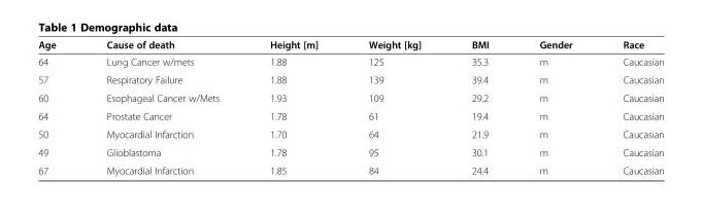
<table><thead><tr><td>Age</td><td>Cause of death</td><td>Height [m]</td><td>Weight [kg]</td><td>BMI</td><td>Gender</td><td>Race</td></tr></thead><tbody><tr><td>64</td><td>Lung Cancer w/mets</td><td>1.88</td><td>125</td><td>35.3</td><td>m</td><td>Caucasian</td></tr><tr><td>57</td><td>Respiratory Failure</td><td>1.88</td><td>139</td><td>39.4</td><td>m</td><td>Caucasian</td></tr><tr><td>60</td><td>Esophageal Cancer w/Mets</td><td>1.93</td><td>109</td><td>29.2</td><td>m</td><td>Caucasian</td></tr><tr><td>64</td><td>Prostate Cancer</td><td>1.78</td><td>61</td><td>19.4</td><td>m</td><td>Caucasian</td></tr><tr><td>50</td><td>Myocardial Infarction</td><td>1.70</td><td>64</td><td>21.9</td><td>m</td><td>Caucasian</td></tr><tr><td>49</td><td>Glioblastoma</td><td>1.78</td><td>95</td><td>30.1</td><td>m</td><td>Caucasian</td></tr><tr><td>67</td><td>Myocardial Infarction</td><td>1.85</td><td>84</td><td>24.4</td><td>m</td><td>Caucasian</td></tr></tbody></table>